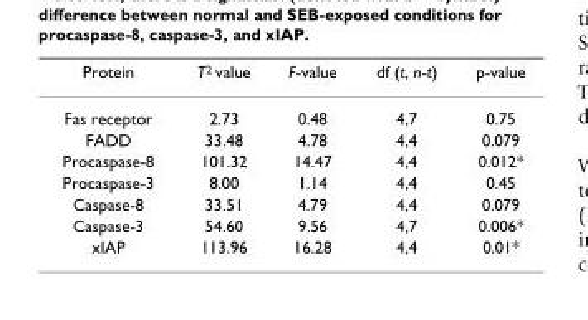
<table><thead><tr><td>Protein</td><td>T2 value</td><td>F-value</td><td>df (t, n-t)</td><td>p-value</td></tr></thead><tbody><tr><td>Fas receptor</td><td>2.73</td><td>0.48</td><td>4,7</td><td>0.75</td></tr><tr><td>FADD</td><td>33.48</td><td>4.78</td><td>4,4</td><td>0.079</td></tr><tr><td>Procaspase-8</td><td>101.32</td><td>14.47</td><td>4,4</td><td>0.012*</td></tr><tr><td>Procaspase-3</td><td>8.00</td><td>1.14</td><td>4,4</td><td>0.45</td></tr><tr><td>Caspase-8</td><td>33.51</td><td>4.79</td><td>4,4</td><td>0.079</td></tr><tr><td>Caspase-3</td><td>54.60</td><td>9.56</td><td>4,7</td><td>0.006*</td></tr><tr><td>xIAP</td><td>113.96</td><td>16.28</td><td>4,4</td><td>0.01*</td></tr></tbody></table>